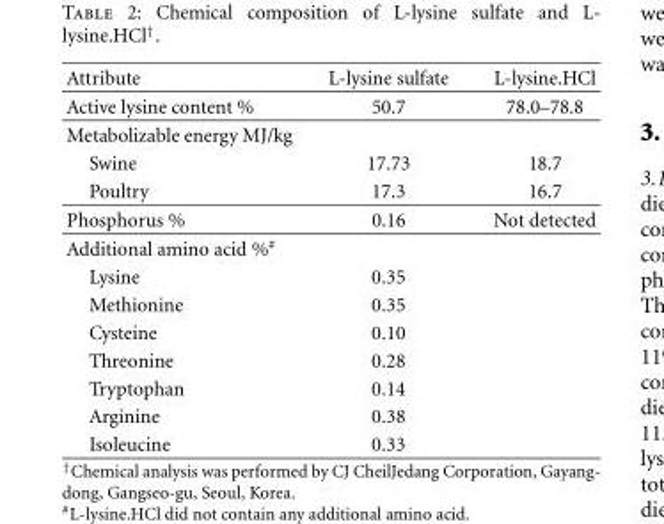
<table><thead><tr><td>Attribute</td><td>L-lysine sulfate</td><td>L-lysine.HCl</td></tr></thead><tbody><tr><td>Active lysine content %</td><td>50.7</td><td>78.0–78.8</td></tr><tr><td colspan="3">Metabolizable energy MJ/kg</td></tr><tr><td>Swine</td><td>17.73</td><td>18.7</td></tr><tr><td>Poultry</td><td>17.3</td><td>16.7</td></tr><tr><td>Phosphorus %</td><td>0.16</td><td>Not detected</td></tr><tr><td colspan="3">Additional amino acid %<sup>#</sup></td></tr><tr><td>Lysine</td><td>0.35</td><td></td></tr><tr><td>Methionine</td><td>0.35</td><td></td></tr><tr><td>Cysteine</td><td>0.10</td><td></td></tr><tr><td>Threonine</td><td>0.28</td><td></td></tr><tr><td>Tryptophan</td><td>0.14</td><td></td></tr><tr><td>Arginine</td><td>0.38</td><td></td></tr><tr><td>Isoleucine</td><td>0.33</td><td></td></tr></tbody></table>